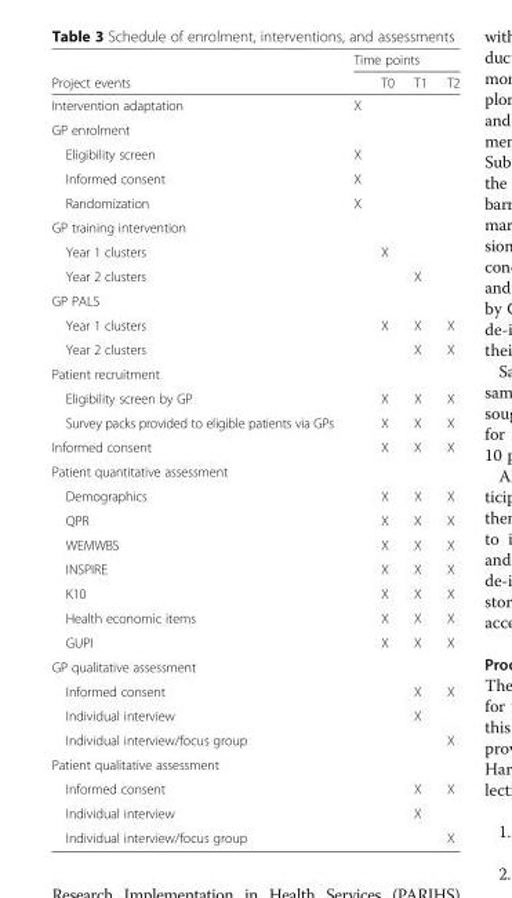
<table><thead><tr><td rowspan="2">Project events</td><td colspan="4">Time points</td></tr><tr><td></td><td>T0</td><td>T1</td><td>T2</td></tr></thead><tbody><tr><td>Intervention adaptation</td><td>X</td><td></td><td></td><td></td></tr><tr><td colspan="5">GP enrolment</td></tr><tr><td>Eligibility screen</td><td>X</td><td></td><td></td><td></td></tr><tr><td>Informed consent</td><td>X</td><td></td><td></td><td></td></tr><tr><td>Randomization</td><td>X</td><td></td><td></td><td></td></tr><tr><td colspan="5">GP training intervention</td></tr><tr><td>Year 1 clusters</td><td></td><td>X</td><td></td><td></td></tr><tr><td>Year 2 clusters</td><td></td><td></td><td>X</td><td></td></tr><tr><td colspan="5">GP PALS</td></tr><tr><td>Year 1 clusters</td><td></td><td>X</td><td>X</td><td>X</td></tr><tr><td>Year 2 clusters</td><td></td><td></td><td>X</td><td>X</td></tr><tr><td colspan="5">Patient recruitment</td></tr><tr><td>Eligibility screen by GP</td><td></td><td>X</td><td>X</td><td>X</td></tr><tr><td>Survey packs provided to eligible patients via GPs</td><td></td><td>X</td><td>X</td><td>X</td></tr><tr><td>Informed consent</td><td></td><td>X</td><td>X</td><td>X</td></tr><tr><td colspan="5">Patient quantitative assessment</td></tr><tr><td>Demographics</td><td></td><td>X</td><td>X</td><td>X</td></tr><tr><td>QPR</td><td></td><td>X</td><td>X</td><td>X</td></tr><tr><td>WEMWBS</td><td></td><td>X</td><td>X</td><td>X</td></tr><tr><td>INSPIRE</td><td></td><td>X</td><td>X</td><td>X</td></tr><tr><td>K10</td><td></td><td>X</td><td>X</td><td>X</td></tr><tr><td>Health economic items</td><td></td><td>X</td><td>X</td><td>X</td></tr><tr><td>GUPI</td><td></td><td>X</td><td>X</td><td>X</td></tr><tr><td colspan="5">GP qualitative assessment</td></tr><tr><td>Informed consent</td><td></td><td></td><td>X</td><td>X</td></tr><tr><td>Individual interview</td><td></td><td></td><td>X</td><td></td></tr><tr><td>Individual interview/focus group</td><td></td><td></td><td></td><td>X</td></tr><tr><td colspan="5">Patient qualitative assessment</td></tr><tr><td>Informed consent</td><td></td><td></td><td>X</td><td>X</td></tr><tr><td>Individual interview</td><td></td><td></td><td>X</td><td></td></tr><tr><td>Individual interview/focus group</td><td></td><td></td><td></td><td>X</td></tr></tbody></table>